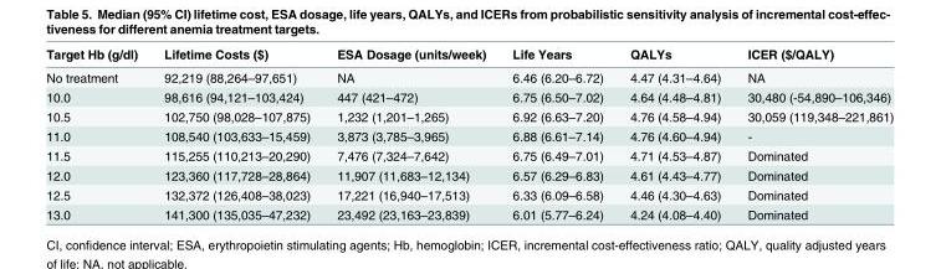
<table><thead><tr><td>Target Hb (g/dl)</td><td>Lifetime Costs ($)</td><td>ESA Dosage (units/week)</td><td>Life Years</td><td>QALYs</td><td>ICER ($/QALY)</td></tr></thead><tbody><tr><td>No treatment</td><td>92,219 (88,264–97,651)</td><td>NA</td><td>6.46 (6.20–6.72)</td><td>4.47 (4.31–4.64)</td><td>NA</td></tr><tr><td>10.0</td><td>98,616 (94,121–103,424)</td><td>447 (421–472)</td><td>6.75 (6.50–7.02)</td><td>4.64 (4.48–4.81)</td><td>30,480 (-54,890–106,346)</td></tr><tr><td>10.5</td><td>102,750 (98,028–107,875)</td><td>1,232 (1,201–1,265)</td><td>6.92 (6.63–7.20)</td><td>4.76 (4.58–4.94)</td><td>30,059 (119,348–221,861)</td></tr><tr><td>11.0</td><td>108,540 (103,633–15,459)</td><td>3,873 (3,785–3,965)</td><td>6.88 (6.61–7.14)</td><td>4.76 (4.60–4.94)</td><td>-</td></tr><tr><td>11.5</td><td>115,255 (110,213–20,290)</td><td>7,476 (7,324–7,642)</td><td>6.75 (6.49–7.01)</td><td>4.71 (4.53–4.87)</td><td>Dominated</td></tr><tr><td>12.0</td><td>123,360 (117,728–28,864)</td><td>11,907 (11,683–12,134)</td><td>6.57 (6.29–6.83)</td><td>4.61 (4.43–4.77)</td><td>Dominated</td></tr><tr><td>12.5</td><td>132,372 (126,408–38,023)</td><td>17,221 (16,940–17,513)</td><td>6.33 (6.09–6.58)</td><td>4.46 (4.30–4.63)</td><td>Dominated</td></tr><tr><td>13.0</td><td>141,300 (135,035–47,232)</td><td>23,492 (23,163–23,839)</td><td>6.01 (5.77–6.24)</td><td>4.24 (4.08–4.40)</td><td>Dominated</td></tr></tbody></table>